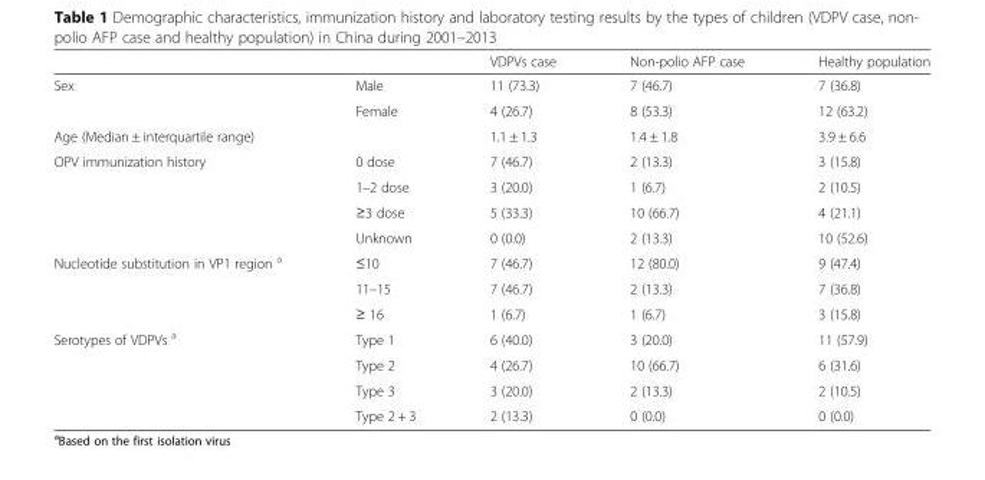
<table><thead><tr><td></td><td></td><td>VDPVs case</td><td>Non-polio AFP case</td><td>Healthy population</td></tr></thead><tbody><tr><td rowspan="2">Sex</td><td>Male</td><td>11 (73.3)</td><td>7 (46.7)</td><td>7 (36.8)</td></tr><tr><td>Female</td><td>4 (26.7)</td><td>8 (53.3)</td><td>12 (63.2)</td></tr><tr><td colspan="2">Age (Median ± interquartile range)</td><td>1.1 ± 1.3</td><td>1.4 ± 1.8</td><td>3.9 ± 6.6</td></tr><tr><td rowspan="4">OPV immunization history</td><td>0 dose</td><td>7 (46.7)</td><td>2 (13.3)</td><td>3 (15.8)</td></tr><tr><td>1–2 dose</td><td>3 (20.0)</td><td>1 (6.7)</td><td>2 (10.5)</td></tr><tr><td>≥3 dose</td><td>5 (33.3)</td><td>10 (66.7)</td><td>4 (21.1)</td></tr><tr><td>Unknown</td><td>0 (0.0)</td><td>2 (13.3)</td><td>10 (52.6)</td></tr><tr><td rowspan="3">Nucleotide substitution in VP1 region <sup>a</sup></td><td>≤10</td><td>7 (46.7)</td><td>12 (80.0)</td><td>9 (47.4)</td></tr><tr><td>11–15</td><td>7 (46.7)</td><td>2 (13.3)</td><td>7 (36.8)</td></tr><tr><td>≥ 16</td><td>1 (6.7)</td><td>1 (6.7)</td><td>3 (15.8)</td></tr><tr><td rowspan="4">Serotypes of VDPVs <sup>a</sup></td><td>Type 1</td><td>6 (40.0)</td><td>3 (20.0)</td><td>11 (57.9)</td></tr><tr><td>Type 2</td><td>4 (26.7)</td><td>10 (66.7)</td><td>6 (31.6)</td></tr><tr><td>Type 3</td><td>3 (20.0)</td><td>2 (13.3)</td><td>2 (10.5)</td></tr><tr><td>Type 2 + 3</td><td>2 (13.3)</td><td>0 (0.0)</td><td>0 (0.0)</td></tr></tbody></table>